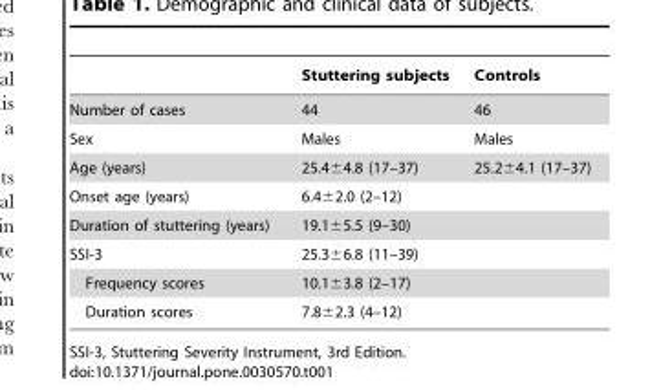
<table><thead><tr><td></td><td>Stuttering subjects</td><td>Controls</td></tr></thead><tbody><tr><td>Number of cases</td><td>44</td><td>46</td></tr><tr><td>Sex</td><td>Males</td><td>Males</td></tr><tr><td>Age (years)</td><td>25.4±4.8 (17–37)</td><td>25.2±4.1 (17–37)</td></tr><tr><td>Onset age (years)</td><td>6.4±2.0 (2–12)</td><td></td></tr><tr><td>Duration of stuttering (years)</td><td>19.1±5.5 (9–30)</td><td></td></tr><tr><td>SSI-3</td><td>25.3±6.8 (11–39)</td><td></td></tr><tr><td>Frequency scores</td><td>10.1±3.8 (2–17)</td><td></td></tr><tr><td>Duration scores</td><td>7.8±2.3 (4–12)</td><td></td></tr></tbody></table>